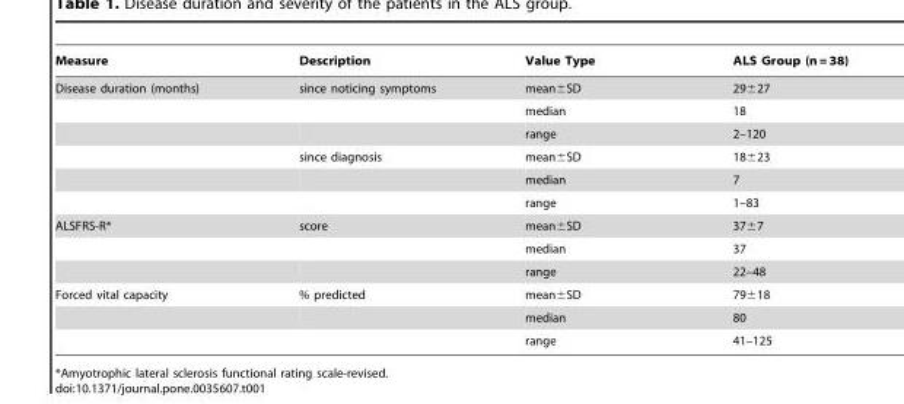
<table><thead><tr><td>Measure</td><td>Description</td><td>Value Type</td><td>ALS Group (n = 38)</td></tr></thead><tbody><tr><td rowspan="6">Disease duration (months)</td><td>since noticing symptoms</td><td>mean±SD</td><td>29±27</td></tr><tr><td></td><td>median</td><td>18</td></tr><tr><td></td><td>range</td><td>2–120</td></tr><tr><td>since diagnosis</td><td>mean±SD</td><td>18±23</td></tr><tr><td></td><td>median</td><td>7</td></tr><tr><td></td><td>range</td><td>1–83</td></tr><tr><td rowspan="3">ALSFRS-R*</td><td>score</td><td>mean±SD</td><td>37±7</td></tr><tr><td></td><td>median</td><td>37</td></tr><tr><td></td><td>range</td><td>22–48</td></tr><tr><td rowspan="3">Forced vital capacity</td><td>% predicted</td><td>mean±SD</td><td>79±18</td></tr><tr><td></td><td>median</td><td>80</td></tr><tr><td></td><td>range</td><td>41–125</td></tr></tbody></table>